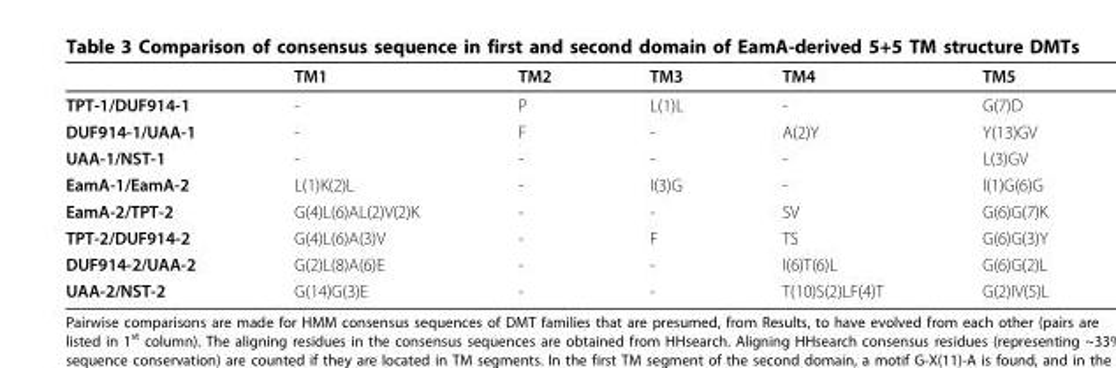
<table><thead><tr><td></td><td>TM1</td><td>TM2</td><td>TM3</td><td>TM4</td><td>TM5</td></tr></thead><tbody><tr><td>TPT-1/DUF914-1</td><td>-</td><td>P</td><td>L(1)L</td><td>-</td><td>G(7)D</td></tr><tr><td>DUF914-1/UAA-1</td><td>-</td><td>F</td><td>-</td><td>A(2)Y</td><td>Y(13)GV</td></tr><tr><td>UAA-1/NST-1</td><td>-</td><td>-</td><td>-</td><td>-</td><td>L(3)GV</td></tr><tr><td>EamA-1/EamA-2</td><td>L(1)K(2)L</td><td>-</td><td>I(3)G</td><td>-</td><td>I(1)G(6)G</td></tr><tr><td>EamA-2/TPT-2</td><td>G(4)L(6)AL(2)V(2)K</td><td>-</td><td>-</td><td>SV</td><td>G(6)G(7)K</td></tr><tr><td>TPT-2/DUF914-2</td><td>G(4)L(6)A(3)V</td><td>-</td><td>F</td><td>TS</td><td>G(6)G(3)Y</td></tr><tr><td>DUF914-2/UAA-2</td><td>G(2)L(8)A(6)E</td><td>-</td><td>-</td><td>I(6)T(6)L</td><td>G(6)G(2)L</td></tr><tr><td>UAA-2/NST-2</td><td>G(14)G(3)E</td><td>-</td><td>-</td><td>T(10)S(2)LF(4)T</td><td>G(2)IV(5)L</td></tr></tbody></table>